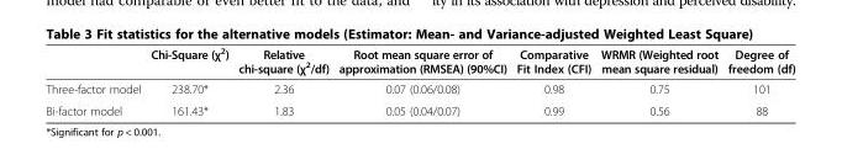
<table><thead><tr><td></td><td>Chi-Square (χ<sup>2</sup>)</td><td>Relative chi-square (χ<sup>2</sup>/df)</td><td>Root mean square error of approximation (RMSEA) (90%CI)</td><td>Comparative Fit Index (CFI)</td><td>WRMR (Weighted root mean square residual)</td><td>Degree of freedom (df)</td></tr></thead><tbody><tr><td>Three-factor model</td><td>238.70*</td><td>2.36</td><td>0.07 (0.06/0.08)</td><td>0.98</td><td>0.75</td><td>101</td></tr><tr><td>Bi-factor model</td><td>161.43*</td><td>1.83</td><td>0.05 (0.04/0.07)</td><td>0.99</td><td>0.56</td><td>88</td></tr></tbody></table>